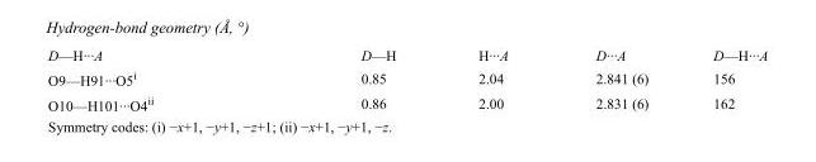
<table><tbody><tr><td>D—H···A</td><td>D—H</td><td>H···A</td><td>D···A</td><td>D—H···A</td></tr><tr><td>O9—H91···O5<sup>i</sup></td><td>0.85</td><td>2.04</td><td>2.841 (6)</td><td>156</td></tr><tr><td>O10—H101···O4<sup>ii</sup></td><td>0.86</td><td>2.00</td><td>2.831 (6)</td><td>162</td></tr></tbody></table>